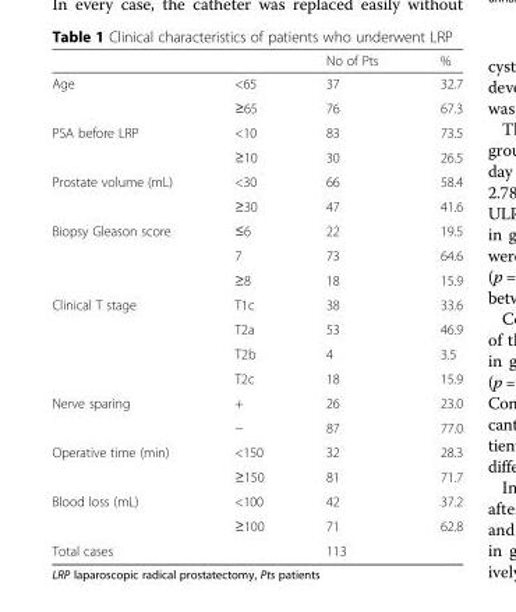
<table><thead><tr><td></td><td></td><td>No of Pts</td><td>%</td></tr></thead><tbody><tr><td rowspan="2">Age</td><td>&lt;65</td><td>37</td><td>32.7</td></tr><tr><td>≥65</td><td>76</td><td>67.3</td></tr><tr><td rowspan="2">PSA before LRP</td><td>&lt;10</td><td>83</td><td>73.5</td></tr><tr><td>≥10</td><td>30</td><td>26.5</td></tr><tr><td rowspan="2">Prostate volume (mL)</td><td>&lt;30</td><td>66</td><td>58.4</td></tr><tr><td>≥30</td><td>47</td><td>41.6</td></tr><tr><td rowspan="3">Biopsy Gleason score</td><td>≤6</td><td>22</td><td>19.5</td></tr><tr><td>7</td><td>73</td><td>64.6</td></tr><tr><td>≥8</td><td>18</td><td>15.9</td></tr><tr><td rowspan="4">Clinical T stage</td><td>T1c</td><td>38</td><td>33.6</td></tr><tr><td>T2a</td><td>53</td><td>46.9</td></tr><tr><td>T2b</td><td>4</td><td>3.5</td></tr><tr><td>T2c</td><td>18</td><td>15.9</td></tr><tr><td rowspan="2">Nerve sparing</td><td>+</td><td>26</td><td>23.0</td></tr><tr><td>−</td><td>87</td><td>77.0</td></tr><tr><td rowspan="2">Operative time (min)</td><td>&lt;150</td><td>32</td><td>28.3</td></tr><tr><td>≥150</td><td>81</td><td>71.7</td></tr><tr><td rowspan="2">Blood loss (mL)</td><td>&lt;100</td><td>42</td><td>37.2</td></tr><tr><td>≥100</td><td>71</td><td>62.8</td></tr><tr><td>Total cases</td><td></td><td>113</td><td></td></tr></tbody></table>